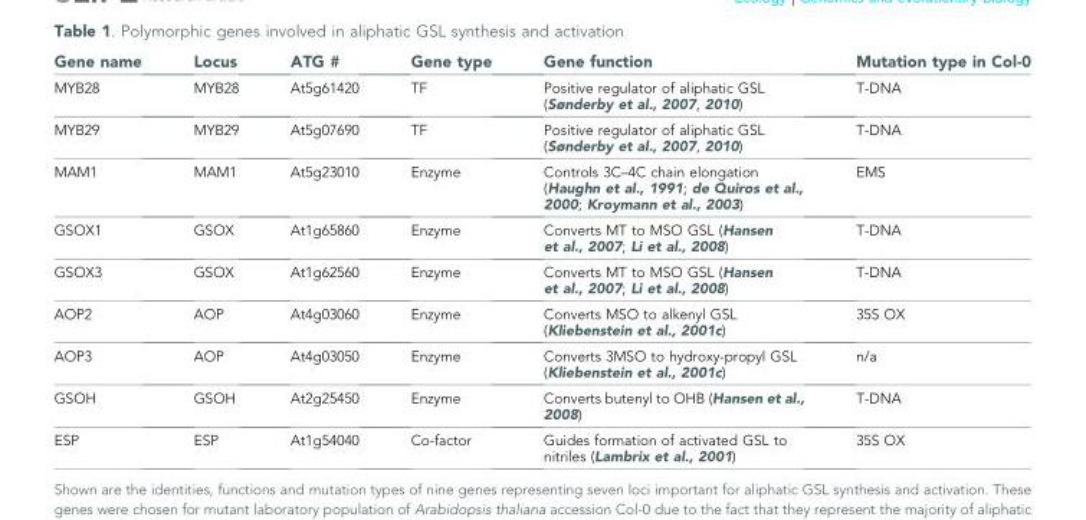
<table><thead><tr><td>Gene name</td><td>Locus</td><td>ATG #</td><td>Gene type</td><td>Gene function</td><td>Mutation type in Col-0</td></tr></thead><tbody><tr><td>MYB28</td><td>MYB28</td><td>At5g61420</td><td>TF</td><td>Positive regulator of aliphatic GSL (Sønderby et al., 2007, 2010)</td><td>T-DNA</td></tr><tr><td>MYB29</td><td>MYB29</td><td>At5g07690</td><td>TF</td><td>Positive regulator of aliphatic GSL (Sønderby et al., 2007, 2010)</td><td>T-DNA</td></tr><tr><td>MAM1</td><td>MAM1</td><td>At5g23010</td><td>Enzyme</td><td>Controls 3C–4C chain elongation (Haughn et al., 1991; de Quiros et al., 2000; Kroymann et al., 2003)</td><td>EMS</td></tr><tr><td>GSOX1</td><td>GSOX</td><td>At1g65860</td><td>Enzyme</td><td>Converts MT to MSO GSL (Hansen et al., 2007; Li et al., 2008)</td><td>T-DNA</td></tr><tr><td>GSOX3</td><td>GSOX</td><td>At1g62560</td><td>Enzyme</td><td>Converts MT to MSO GSL (Hansen et al., 2007; Li et al., 2008)</td><td>T-DNA</td></tr><tr><td>AOP2</td><td>AOP</td><td>At4g03060</td><td>Enzyme</td><td>Converts MSO to alkenyl GSL (Kliebenstein et al., 2001c)</td><td>35S OX</td></tr><tr><td>AOP3</td><td>AOP</td><td>At4g03050</td><td>Enzyme</td><td>Converts 3MSO to hydroxy-propyl GSL (Kliebenstein et al., 2001c)</td><td>n/a</td></tr><tr><td>GSOH</td><td>GSOH</td><td>At2g25450</td><td>Enzyme</td><td>Converts butenyl to OHB (Hansen et al., 2008)</td><td>T-DNA</td></tr><tr><td>ESP</td><td>ESP</td><td>At1g54040</td><td>Co-factor</td><td>Guides formation of activated GSL to nitriles (Lambrix et al., 2001)</td><td>35S OX</td></tr></tbody></table>